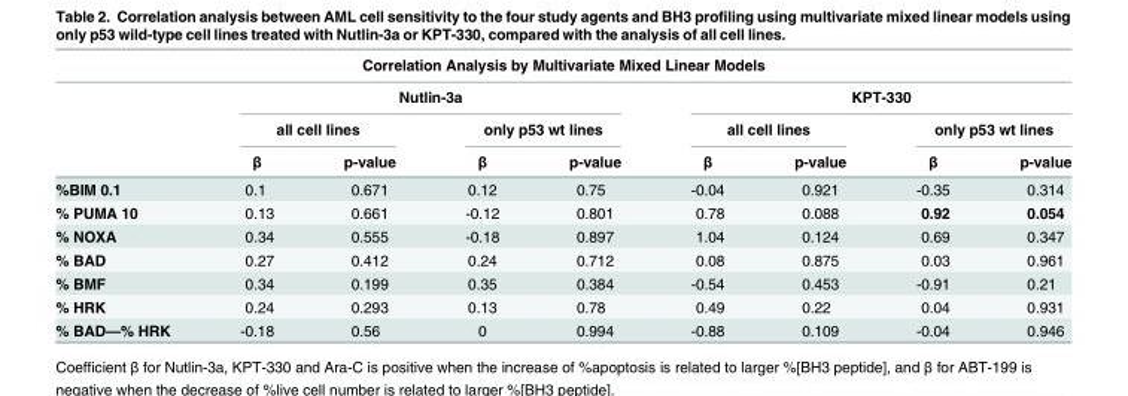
<table><thead><tr><td colspan="9">Correlation Analysis by Multivariate Mixed Linear Models</td></tr><tr><td rowspan="3"></td><td colspan="4">Nutlin-3a</td><td colspan="4">KPT-330</td></tr><tr><td colspan="2">all cell lines</td><td colspan="2">only p53 wt lines</td><td colspan="2">all cell lines</td><td colspan="2">only p53 wt lines</td></tr><tr><td>β</td><td>p-value</td><td>β</td><td>p-value</td><td>β</td><td>p-value</td><td>β</td><td>p-value</td></tr></thead><tbody><tr><td>%BIM 0.1</td><td>0.1</td><td>0.671</td><td>0.12</td><td>0.75</td><td>-0.04</td><td>0.921</td><td>-0.35</td><td>0.314</td></tr><tr><td>% PUMA 10</td><td>0.13</td><td>0.661</td><td>-0.12</td><td>0.801</td><td>0.78</td><td>0.088</td><td>0.92</td><td>0.054</td></tr><tr><td>% NOXA</td><td>0.34</td><td>0.555</td><td>-0.18</td><td>0.897</td><td>1.04</td><td>0.124</td><td>0.69</td><td>0.347</td></tr><tr><td>% BAD</td><td>0.27</td><td>0.412</td><td>0.24</td><td>0.712</td><td>0.08</td><td>0.875</td><td>0.03</td><td>0.961</td></tr><tr><td>% BMF</td><td>0.34</td><td>0.199</td><td>0.35</td><td>0.384</td><td>-0.54</td><td>0.453</td><td>-0.91</td><td>0.21</td></tr><tr><td>% HRK</td><td>0.24</td><td>0.293</td><td>0.13</td><td>0.78</td><td>0.49</td><td>0.22</td><td>0.04</td><td>0.931</td></tr><tr><td>% BAD—% HRK</td><td>-0.18</td><td>0.56</td><td>0</td><td>0.994</td><td>-0.88</td><td>0.109</td><td>-0.04</td><td>0.946</td></tr></tbody></table>